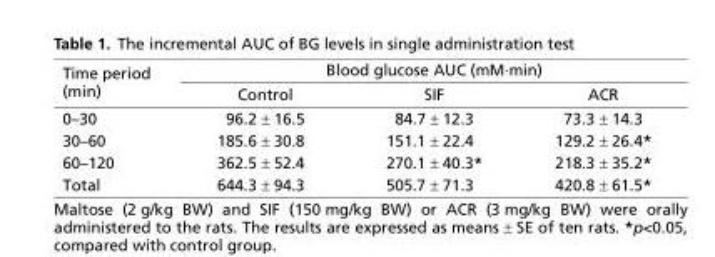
<table><thead><tr><td rowspan="2">Time period (min)</td><td colspan="3">Blood glucose AUC (mM·min)</td></tr><tr><td>Control</td><td>SIF</td><td>ACR</td></tr></thead><tbody><tr><td>0–30</td><td>96.2 ± 16.5</td><td>84.7 ± 12.3</td><td>73.3 ± 14.3</td></tr><tr><td>30–60</td><td>185.6 ± 30.8</td><td>151.1 ± 22.4</td><td>129.2 ± 26.4*</td></tr><tr><td>60–120</td><td>362.5 ± 52.4</td><td>270.1 ± 40.3*</td><td>218.3 ± 35.2*</td></tr><tr><td>Total</td><td>644.3 ± 94.3</td><td>505.7 ± 71.3</td><td>420.8 ± 61.5*</td></tr></tbody></table>